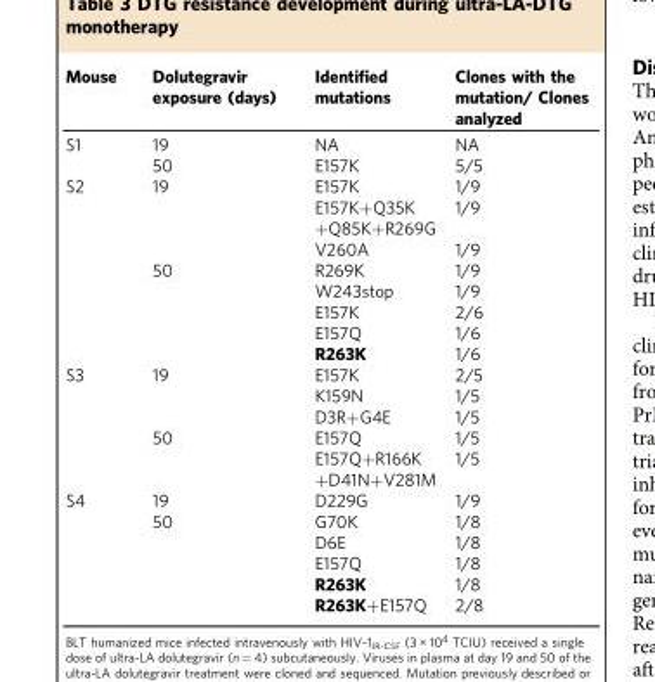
<table><thead><tr><td>Mouse</td><td>Dolutegravir exposure (days)</td><td>Identified mutations</td><td>Clones with the mutation/ Clones analyzed</td></tr></thead><tbody><tr><td rowspan="2">S1</td><td>19</td><td>NA</td><td>NA</td></tr><tr><td>50</td><td>E157K</td><td>5/5</td></tr><tr><td rowspan="8">S2</td><td>19</td><td>E157K</td><td>1/9</td></tr><tr><td></td><td>E157K+Q35K +Q85K+R269G</td><td>1/9</td></tr><tr><td></td><td>V260A</td><td>1/9</td></tr><tr><td>50</td><td>R269K</td><td>1/9</td></tr><tr><td></td><td>W243stop</td><td>1/9</td></tr><tr><td></td><td>E157K</td><td>2/6</td></tr><tr><td></td><td>E157Q</td><td>1/6</td></tr><tr><td></td><td>R263K</td><td>1/6</td></tr><tr><td rowspan="5">S3</td><td>19</td><td>E157K</td><td>2/5</td></tr><tr><td></td><td>K159N</td><td>1/5</td></tr><tr><td></td><td>D3R+G4E</td><td>1/5</td></tr><tr><td>50</td><td>E157Q</td><td>1/5</td></tr><tr><td></td><td>E157Q+R166K +D41N+V281M</td><td>1/5</td></tr><tr><td rowspan="6">S4</td><td>19</td><td>D229G</td><td>1/9</td></tr><tr><td>50</td><td>G70K</td><td>1/8</td></tr><tr><td></td><td>D6E</td><td>1/8</td></tr><tr><td></td><td>E157Q</td><td>1/8</td></tr><tr><td></td><td>R263K</td><td>1/8</td></tr><tr><td></td><td>R263K+E157Q</td><td>2/8</td></tr></tbody></table>